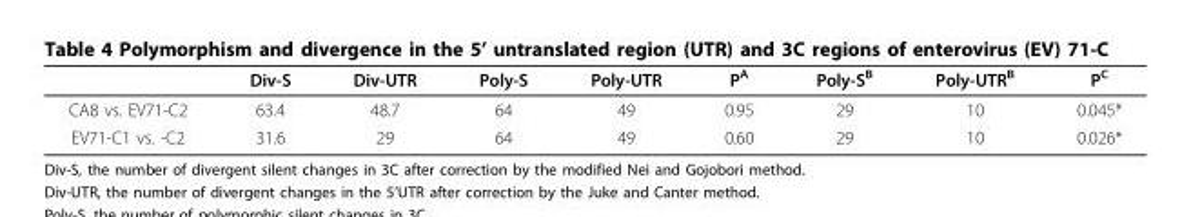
<table><thead><tr><td></td><td>Div-S</td><td>Div-UTR</td><td>Poly-S</td><td>Poly-UTR</td><td>P<sup>A</sup></td><td>Poly-S<sup>B</sup></td><td>Poly-UTR<sup>B</sup></td><td>P<sup>C</sup></td></tr></thead><tbody><tr><td>CA8 vs. EV71-C2</td><td>63.4</td><td>48.7</td><td>64</td><td>49</td><td>0.95</td><td>29</td><td>10</td><td>0.045*</td></tr><tr><td>EV71-C1 vs. -C2</td><td>31.6</td><td>29</td><td>64</td><td>49</td><td>0.60</td><td>29</td><td>10</td><td>0.026*</td></tr></tbody></table>